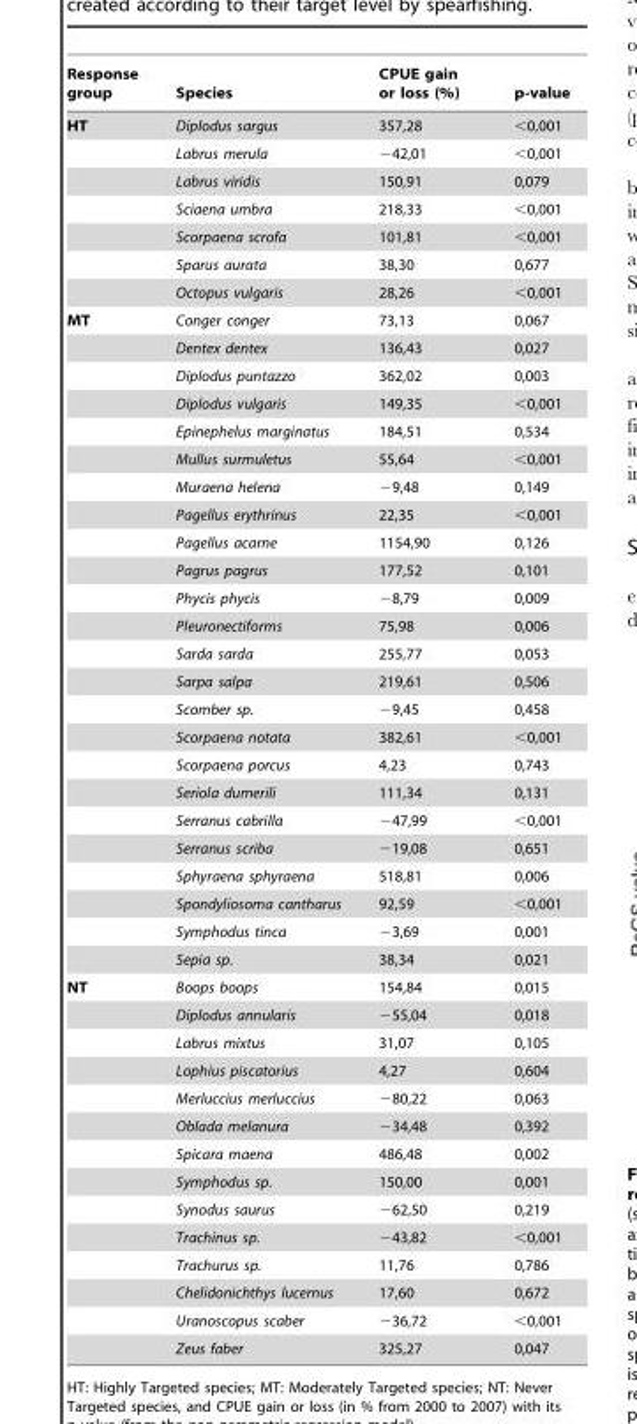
<table><thead><tr><td>Response group</td><td>Species</td><td>CPUE gain or loss (%)</td><td>p-value</td></tr></thead><tbody><tr><td rowspan="7">HT</td><td>Diplodus sargus</td><td>357,28</td><td>&lt;0,001</td></tr><tr><td>Labrus merula</td><td>−42,01</td><td>&lt;0,001</td></tr><tr><td>Labrus viridis</td><td>150,91</td><td>0,079</td></tr><tr><td>Sciaena umbra</td><td>218,33</td><td>&lt;0,001</td></tr><tr><td>Scorpaena scrofa</td><td>101,81</td><td>&lt;0,001</td></tr><tr><td>Sparus aurata</td><td>38,30</td><td>0,677</td></tr><tr><td>Octopus vulgaris</td><td>28,26</td><td>&lt;0,001</td></tr><tr><td rowspan="24">MT</td><td>Conger conger</td><td>73,13</td><td>0,067</td></tr><tr><td>Dentex dentex</td><td>136,43</td><td>0,027</td></tr><tr><td>Diplodus puntazzo</td><td>362,02</td><td>0,003</td></tr><tr><td>Diplodus vulgaris</td><td>149,35</td><td>&lt;0,001</td></tr><tr><td>Epinephelus marginatus</td><td>184,51</td><td>0,534</td></tr><tr><td>Mullus surmuletus</td><td>55,64</td><td>&lt;0,001</td></tr><tr><td>Muraena helena</td><td>−9,48</td><td>0,149</td></tr><tr><td>Pagellus erythrinus</td><td>22,35</td><td>&lt;0,001</td></tr><tr><td>Pagellus acarne</td><td>1154,90</td><td>0,126</td></tr><tr><td>Pagrus pagrus</td><td>177,52</td><td>0,101</td></tr><tr><td>Phycis phycis</td><td>−8,79</td><td>0,009</td></tr><tr><td>Pleuronectiforms</td><td>75,98</td><td>0,006</td></tr><tr><td>Sarda sarda</td><td>255,77</td><td>0,053</td></tr><tr><td>Sarpa salpa</td><td>219,61</td><td>0,506</td></tr><tr><td>Scomber sp.</td><td>−9,45</td><td>0,458</td></tr><tr><td>Scorpaena notata</td><td>382,61</td><td>&lt;0,001</td></tr><tr><td>Scorpaena porcus</td><td>4,23</td><td>0,743</td></tr><tr><td>Seriola dumerili</td><td>111,34</td><td>0,131</td></tr><tr><td>Serranus cabrilla</td><td>−47,99</td><td>&lt;0,001</td></tr><tr><td>Serranus scriba</td><td>−19,08</td><td>0,651</td></tr><tr><td>Sphyraena sphyraena</td><td>518,81</td><td>0,006</td></tr><tr><td>Spondyliosoma cantharus</td><td>92,59</td><td>&lt;0,001</td></tr><tr><td>Symphodus tinca</td><td>−3,69</td><td>0,001</td></tr><tr><td>Sepia sp.</td><td>38,34</td><td>0,021</td></tr><tr><td rowspan="14">NT</td><td>Boops boops</td><td>154,84</td><td>0,015</td></tr><tr><td>Diplodus annularis</td><td>−55,04</td><td>0,018</td></tr><tr><td>Labrus mixtus</td><td>31,07</td><td>0,105</td></tr><tr><td>Lophius piscatorius</td><td>4,27</td><td>0,604</td></tr><tr><td>Merluccius merluccius</td><td>−80,22</td><td>0,063</td></tr><tr><td>Oblada melanura</td><td>−34,48</td><td>0,392</td></tr><tr><td>Spicara maena</td><td>486,48</td><td>0,002</td></tr><tr><td>Symphodus sp.</td><td>150,00</td><td>0,001</td></tr><tr><td>Synodus saurus</td><td>−62,50</td><td>0,219</td></tr><tr><td>Trachinus sp.</td><td>−43,82</td><td>&lt;0,001</td></tr><tr><td>Trachurus sp.</td><td>11,76</td><td>0,786</td></tr><tr><td>Chelidonichthys lucernus</td><td>17,60</td><td>0,672</td></tr><tr><td>Uranoscopus scaber</td><td>−36,72</td><td>&lt;0,001</td></tr><tr><td>Zeus faber</td><td>325,27</td><td>0,047</td></tr></tbody></table>